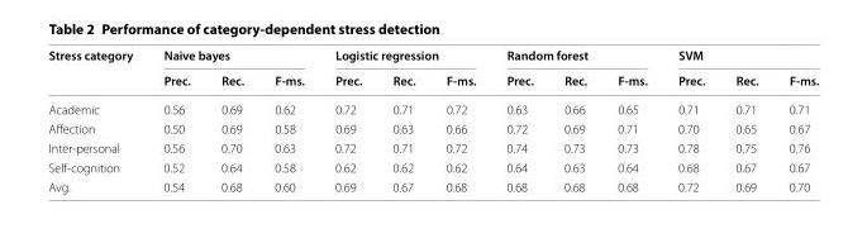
<table><thead><tr><td rowspan="2">Stress category</td><td colspan="3">Naive bayes</td><td colspan="3">Logistic regression</td><td colspan="3">Random forest</td><td colspan="3">SVM</td></tr><tr><td>Prec.</td><td>Rec.</td><td>F‑ms.</td><td>Prec.</td><td>Rec.</td><td>F‑ms.</td><td>Prec.</td><td>Rec.</td><td>F‑ms.</td><td>Prec.</td><td>Rec.</td><td>F‑ms.</td></tr></thead><tbody><tr><td>Academic</td><td>0.56</td><td>0.69</td><td>0.62</td><td>0.72</td><td>0.71</td><td>0.72</td><td>0.63</td><td>0.66</td><td>0.65</td><td>0.71</td><td>0.71</td><td>0.71</td></tr><tr><td>Affection</td><td>0.50</td><td>0.69</td><td>0.58</td><td>0.69</td><td>0.63</td><td>0.66</td><td>0.72</td><td>0.69</td><td>0.71</td><td>0.70</td><td>0.65</td><td>0.67</td></tr><tr><td>Inter-personal</td><td>0.56</td><td>0.70</td><td>0.63</td><td>0.72</td><td>0.71</td><td>0.72</td><td>0.74</td><td>0.73</td><td>0.73</td><td>0.78</td><td>0.75</td><td>0.76</td></tr><tr><td>Self-cognition</td><td>0.52</td><td>0.64</td><td>0.58</td><td>0.62</td><td>0.62</td><td>0.62</td><td>0.64</td><td>0.63</td><td>0.64</td><td>0.68</td><td>0.67</td><td>0.67</td></tr><tr><td>Avg.</td><td>0.54</td><td>0.68</td><td>0.60</td><td>0.69</td><td>0.67</td><td>0.68</td><td>0.68</td><td>0.68</td><td>0.68</td><td>0.72</td><td>0.69</td><td>0.70</td></tr></tbody></table>